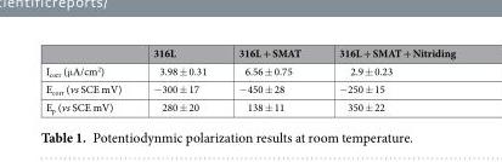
<table><thead><tr><td></td><td>316L</td><td>316L + SMAT</td><td>316L + SMAT + Nitriding</td></tr></thead><tbody><tr><td>I<sub>corr</sub> (μA/cm<sup>2</sup>)</td><td>3.98 ± 0.31</td><td>6.56 ± 0.75</td><td>2.9 ± 0.23</td></tr><tr><td>E<sub>corr</sub> (vs SCE mV)</td><td>−300 ± 17</td><td>−450 ± 28</td><td>−250 ± 15</td></tr><tr><td>E<sub>p</sub> (vs SCE mV)</td><td>280 ± 20</td><td>138 ± 11</td><td>350 ± 22</td></tr></tbody></table>